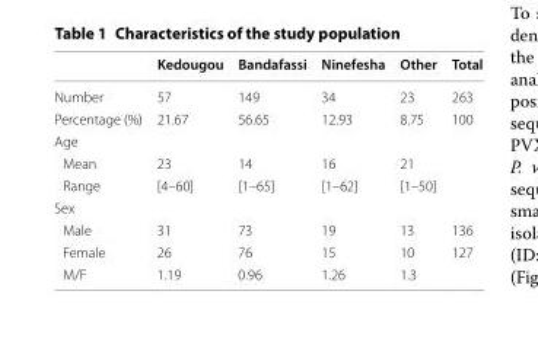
<table><thead><tr><td></td><td>Kedougou</td><td>Bandafassi</td><td>Ninefesha</td><td>Other</td><td>Total</td></tr></thead><tbody><tr><td>Number</td><td>57</td><td>149</td><td>34</td><td>23</td><td>263</td></tr><tr><td>Percentage (%)</td><td>21.67</td><td>56.65</td><td>12.93</td><td>8.75</td><td>100</td></tr><tr><td colspan="6">Age</td></tr><tr><td>Mean</td><td>23</td><td>14</td><td>16</td><td>21</td><td></td></tr><tr><td>Range</td><td>[4–60]</td><td>[1–65]</td><td>[1–62]</td><td>[1–50]</td><td></td></tr><tr><td colspan="6">Sex</td></tr><tr><td>Male</td><td>31</td><td>73</td><td>19</td><td>13</td><td>136</td></tr><tr><td>Female</td><td>26</td><td>76</td><td>15</td><td>10</td><td>127</td></tr><tr><td>M/F</td><td>1.19</td><td>0.96</td><td>1.26</td><td>1.3</td><td></td></tr></tbody></table>